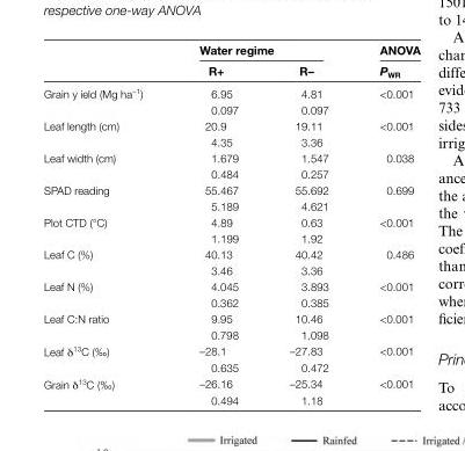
<table><thead><tr><td rowspan="2"></td><td colspan="2">Water regime</td><td rowspan="2">ANOVA P<sub>WR</sub></td></tr><tr><td>R+</td><td>R–</td></tr></thead><tbody><tr><td rowspan="2">Grain y ield (Mg ha<sup>−1</sup>)</td><td>6.95</td><td>4.81</td><td>&lt;0.001</td></tr><tr><td>0.097</td><td>0.097</td><td></td></tr><tr><td rowspan="2">Leaf length (cm)</td><td>20.9</td><td>19.11</td><td>&lt;0.001</td></tr><tr><td>4.35</td><td>3.36</td><td></td></tr><tr><td rowspan="2">Leaf width (cm)</td><td>1.679</td><td>1.547</td><td>0.038</td></tr><tr><td>0.484</td><td>0.257</td><td></td></tr><tr><td rowspan="2">SPAD reading</td><td>55.467</td><td>55.692</td><td>0.699</td></tr><tr><td>5.189</td><td>4.621</td><td></td></tr><tr><td rowspan="2">Plot CTD (°C)</td><td>4.89</td><td>0.63</td><td>&lt;0.001</td></tr><tr><td>1.199</td><td>1.92</td><td></td></tr><tr><td rowspan="2">Leaf C (%)</td><td>40.13</td><td>40.42</td><td>0.486</td></tr><tr><td>3.46</td><td>3.36</td><td></td></tr><tr><td rowspan="2">Leaf N (%)</td><td>4.045</td><td>3.893</td><td>&lt;0.001</td></tr><tr><td>0.362</td><td>0.385</td><td></td></tr><tr><td rowspan="2">Leaf C:N ratio</td><td>9.95</td><td>10.46</td><td>&lt;0.001</td></tr><tr><td>0.798</td><td>1.098</td><td></td></tr><tr><td rowspan="2">Leaf δ<sup>13</sup>C (‰)</td><td>–28.1</td><td>–27.83</td><td>&lt;0.001</td></tr><tr><td>0.635</td><td>0.472</td><td></td></tr><tr><td rowspan="2">Grain δ<sup>13</sup>C (‰)</td><td>–26.16</td><td>–25.34</td><td>&lt;0.001</td></tr><tr><td>0.494</td><td>1.18</td><td></td></tr></tbody></table>